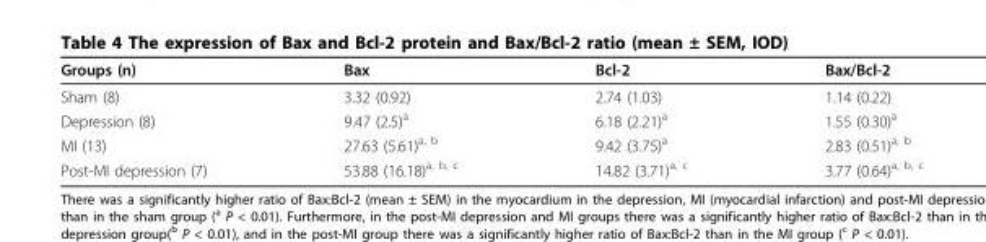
<table><thead><tr><td>Groups (n)</td><td>Bax</td><td>Bcl-2</td><td>Bax/Bcl-2</td></tr></thead><tbody><tr><td>Sham (8)</td><td>3.32 (0.92)</td><td>2.74 (1.03)</td><td>1.14 (0.22)</td></tr><tr><td>Depression (8)</td><td>9.47 (2.5)<sup>a</sup></td><td>6.18 (2.21)<sup>a</sup></td><td>1.55 (0.30)<sup>a</sup></td></tr><tr><td>MI (13)</td><td>27.63 (5.61)<sup>a, b</sup></td><td>9.42 (3.75)<sup>a</sup></td><td>2.83 (0.51)<sup>a, b</sup></td></tr><tr><td>Post-MI depression (7)</td><td>53.88 (16.18)<sup>a, b, c</sup></td><td>14.82 (3.71)<sup>a, c</sup></td><td>3.77 (0.64)<sup>a, b, c</sup></td></tr></tbody></table>